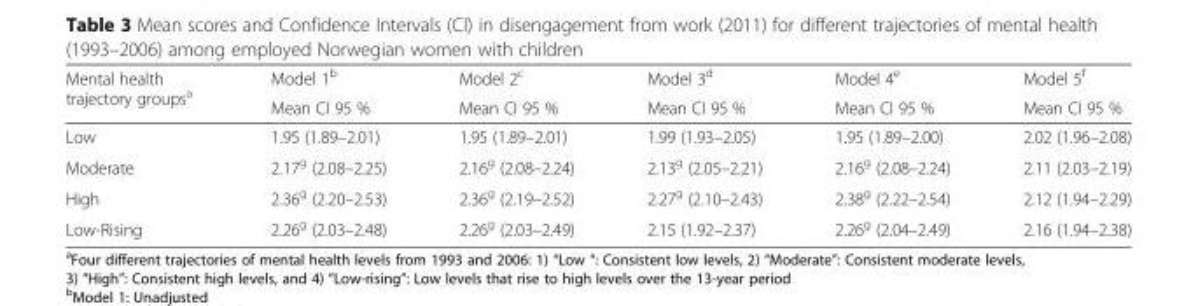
<table><thead><tr><td rowspan="2">Mental health trajectory groups<sup>a</sup></td><td rowspan="2">Model 1<sup>b</sup> Mean CI 95 %</td><td rowspan="2">Model 2<sup>c</sup> Mean CI 95 %</td><td rowspan="2">Model 3<sup>d</sup> Mean CI 95 %</td><td rowspan="2">Model 4<sup>e</sup> Mean CI 95 %</td><td rowspan="2">Model 5<sup>f</sup> Mean CI 95 %</td></tr><tr></tr></thead><tbody><tr><td>Low</td><td>1.95 (1.89–2.01)</td><td>1.95 (1.89–2.01)</td><td>1.99 (1.93–2.05)</td><td>1.95 (1.89–2.00)</td><td>2.02 (1.96–2.08)</td></tr><tr><td>Moderate</td><td>2.17<sup>g</sup> (2.08–2.25)</td><td>2.16<sup>g</sup> (2.08–2.24)</td><td>2.13<sup>g</sup> (2.05–2.21)</td><td>2.16<sup>g</sup> (2.08–2.24)</td><td>2.11 (2.03–2.19)</td></tr><tr><td>High</td><td>2.36<sup>g</sup> (2.20–2.53)</td><td>2.36<sup>g</sup> (2.19–2.52)</td><td>2.27<sup>g</sup> (2.10–2.43)</td><td>2.38<sup>g</sup> (2.22–2.54)</td><td>2.12 (1.94–2.29)</td></tr><tr><td>Low-Rising</td><td>2.26<sup>g</sup> (2.03–2.48)</td><td>2.26<sup>g</sup> (2.03–2.49)</td><td>2.15 (1.92–2.37)</td><td>2.26<sup>g</sup> (2.04–2.49)</td><td>2.16 (1.94–2.38)</td></tr></tbody></table>